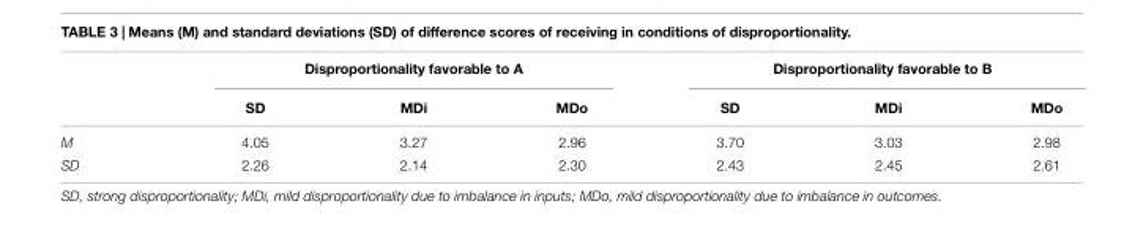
<table><thead><tr><td rowspan="2"></td><td colspan="3">Disproportionality favorable to A</td><td colspan="3">Disproportionality favorable to B</td></tr><tr><td>SD</td><td>MDi</td><td>MDo</td><td>SD</td><td>MDi</td><td>MDo</td></tr></thead><tbody><tr><td>M</td><td>4.05</td><td>3.27</td><td>2.96</td><td>3.70</td><td>3.03</td><td>2.98</td></tr><tr><td>SD</td><td>2.26</td><td>2.14</td><td>2.30</td><td>2.43</td><td>2.45</td><td>2.61</td></tr></tbody></table>